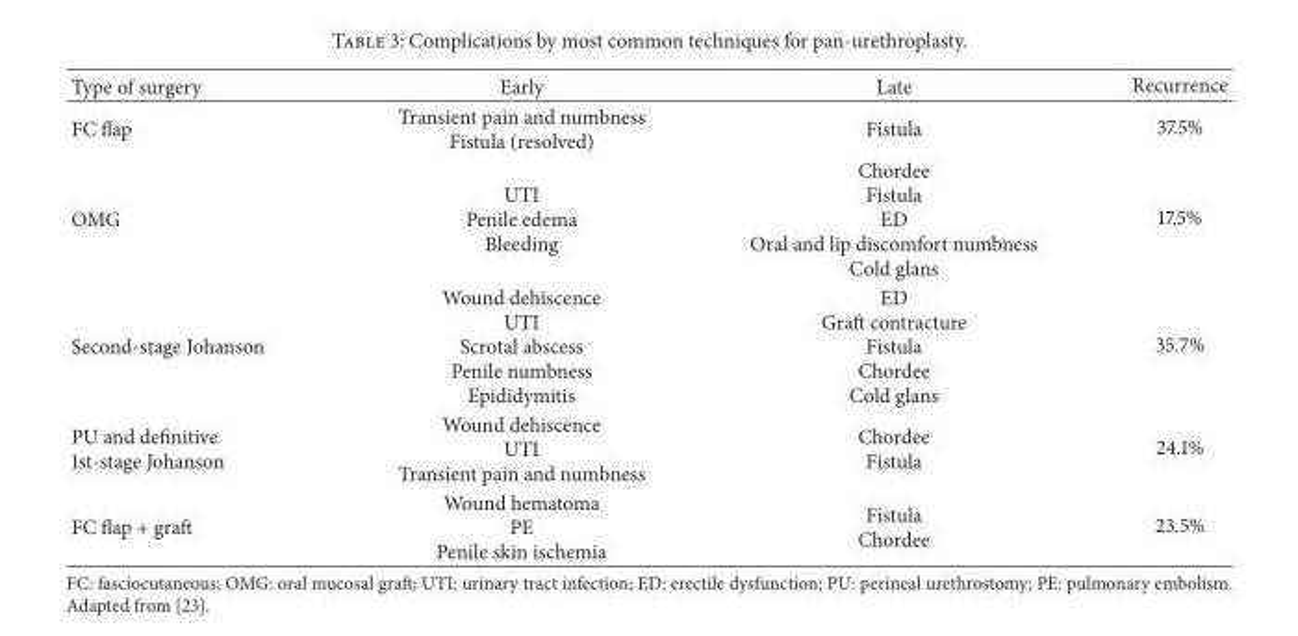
<table><thead><tr><td>Type of surgery</td><td>Early</td><td>Late</td><td>Recurrence</td></tr></thead><tbody><tr><td>FC flap</td><td>Transient pain and numbness Fistula (resolved)</td><td>Fistula</td><td>37.5%</td></tr><tr><td>OMG</td><td>UTI Penile edema Bleeding</td><td>Chordee Fistula ED Oral and lip discomfort numbness Cold glans</td><td>17.5%</td></tr><tr><td>Second-stage Johanson</td><td>Wound dehiscence UTI Scrotal abscess Penile numbness Epididymitis</td><td>ED Graft contracture Fistula Chordee Cold glans</td><td>35.7%</td></tr><tr><td>PU and definitive 1st-stage Johanson</td><td>Wound dehiscence UTI Transient pain and numbness</td><td>Chordee Fistula</td><td>24.1%</td></tr><tr><td>FC flap + graft</td><td>Wound hematoma PE Penile skin ischemia</td><td>Fistula Chordee</td><td>23.5%</td></tr></tbody></table>